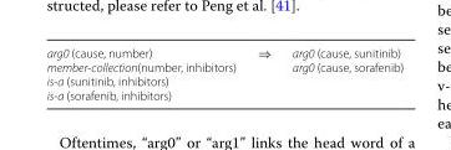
<table><tbody><tr><td>arg0 (cause, number) member‑collection(number, inhibitors) is‑a (sunitinib, inhibitors) is‑a (sorafenib, inhibitors)</td><td>⇒</td><td>arg0 (cause, sunitinib) arg0 (cause, sorafenib)</td></tr></tbody></table>